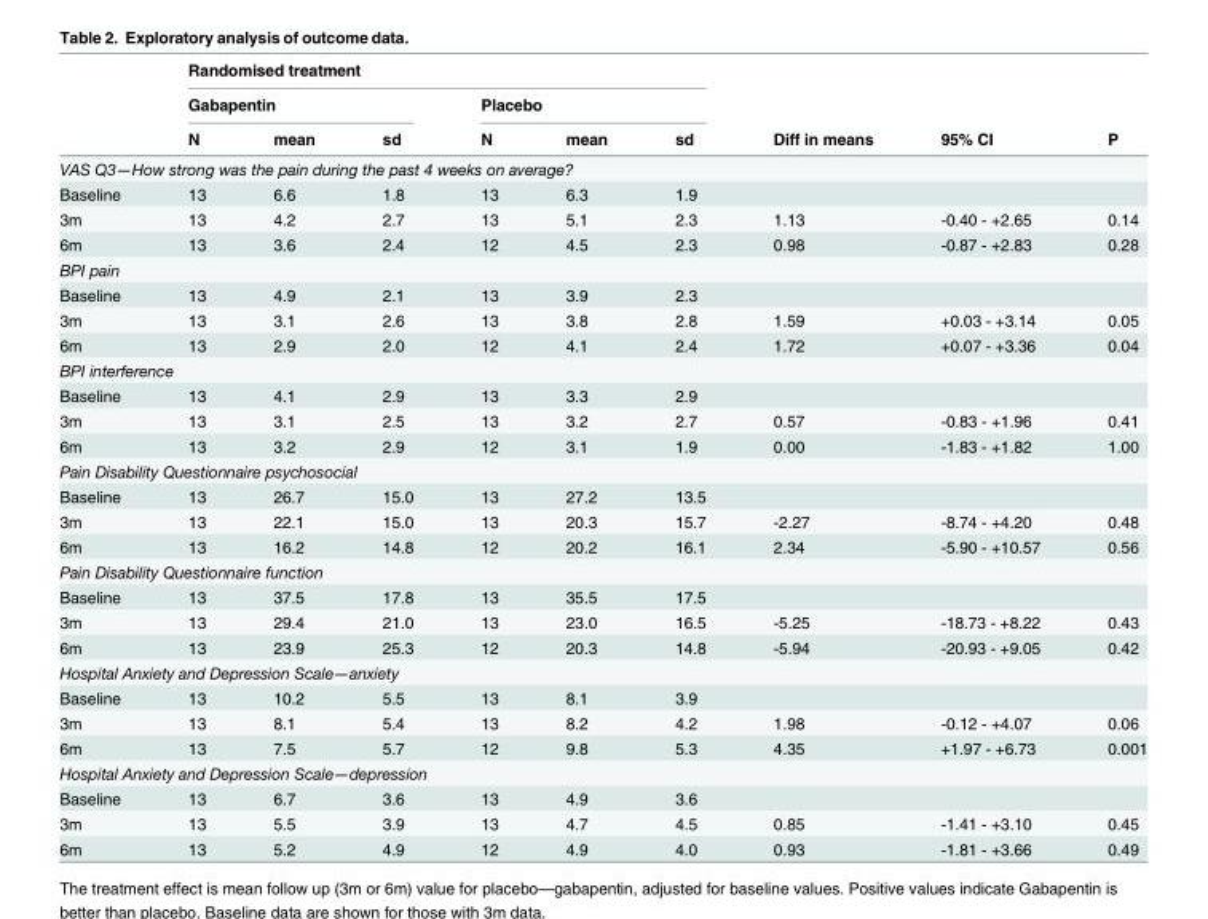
<table><thead><tr><td rowspan="3"></td><td colspan="6">Randomised treatment</td><td rowspan="3">Diff in means</td><td rowspan="3">95% CI</td><td rowspan="3">P</td></tr><tr><td colspan="3">Gabapentin</td><td colspan="3">Placebo</td></tr><tr><td>N</td><td>mean</td><td>sd</td><td>N</td><td>mean</td><td>sd</td></tr></thead><tbody><tr><td colspan="10">VAS Q3—How strong was the pain during the past 4 weeks on average?</td></tr><tr><td>Baseline</td><td>13</td><td>6.6</td><td>1.8</td><td>13</td><td>6.3</td><td>1.9</td><td></td><td></td><td></td></tr><tr><td>3m</td><td>13</td><td>4.2</td><td>2.7</td><td>13</td><td>5.1</td><td>2.3</td><td>1.13</td><td>-0.40 - +2.65</td><td>0.14</td></tr><tr><td>6m</td><td>13</td><td>3.6</td><td>2.4</td><td>12</td><td>4.5</td><td>2.3</td><td>0.98</td><td>-0.87 - +2.83</td><td>0.28</td></tr><tr><td colspan="10">BPI pain</td></tr><tr><td>Baseline</td><td>13</td><td>4.9</td><td>2.1</td><td>13</td><td>3.9</td><td>2.3</td><td></td><td></td><td></td></tr><tr><td>3m</td><td>13</td><td>3.1</td><td>2.6</td><td>13</td><td>3.8</td><td>2.8</td><td>1.59</td><td>+0.03 - +3.14</td><td>0.05</td></tr><tr><td>6m</td><td>13</td><td>2.9</td><td>2.0</td><td>12</td><td>4.1</td><td>2.4</td><td>1.72</td><td>+0.07 - +3.36</td><td>0.04</td></tr><tr><td colspan="10">BPI interference</td></tr><tr><td>Baseline</td><td>13</td><td>4.1</td><td>2.9</td><td>13</td><td>3.3</td><td>2.9</td><td></td><td></td><td></td></tr><tr><td>3m</td><td>13</td><td>3.1</td><td>2.5</td><td>13</td><td>3.2</td><td>2.7</td><td>0.57</td><td>-0.83 - +1.96</td><td>0.41</td></tr><tr><td>6m</td><td>13</td><td>3.2</td><td>2.9</td><td>12</td><td>3.1</td><td>1.9</td><td>0.00</td><td>-1.83 - +1.82</td><td>1.00</td></tr><tr><td colspan="10">Pain Disability Questionnaire psychosocial</td></tr><tr><td>Baseline</td><td>13</td><td>26.7</td><td>15.0</td><td>13</td><td>27.2</td><td>13.5</td><td></td><td></td><td></td></tr><tr><td>3m</td><td>13</td><td>22.1</td><td>15.0</td><td>13</td><td>20.3</td><td>15.7</td><td>-2.27</td><td>-8.74 - +4.20</td><td>0.48</td></tr><tr><td>6m</td><td>13</td><td>16.2</td><td>14.8</td><td>12</td><td>20.2</td><td>16.1</td><td>2.34</td><td>-5.90 - +10.57</td><td>0.56</td></tr><tr><td colspan="10">Pain Disability Questionnaire function</td></tr><tr><td>Baseline</td><td>13</td><td>37.5</td><td>17.8</td><td>13</td><td>35.5</td><td>17.5</td><td></td><td></td><td></td></tr><tr><td>3m</td><td>13</td><td>29.4</td><td>21.0</td><td>13</td><td>23.0</td><td>16.5</td><td>-5.25</td><td>-18.73 - +8.22</td><td>0.43</td></tr><tr><td>6m</td><td>13</td><td>23.9</td><td>25.3</td><td>12</td><td>20.3</td><td>14.8</td><td>-5.94</td><td>-20.93 - +9.05</td><td>0.42</td></tr><tr><td colspan="10">Hospital Anxiety and Depression Scale—anxiety</td></tr><tr><td>Baseline</td><td>13</td><td>10.2</td><td>5.5</td><td>13</td><td>8.1</td><td>3.9</td><td></td><td></td><td></td></tr><tr><td>3m</td><td>13</td><td>8.1</td><td>5.4</td><td>13</td><td>8.2</td><td>4.2</td><td>1.98</td><td>-0.12 - +4.07</td><td>0.06</td></tr><tr><td>6m</td><td>13</td><td>7.5</td><td>5.7</td><td>12</td><td>9.8</td><td>5.3</td><td>4.35</td><td>+1.97 - +6.73</td><td>0.001</td></tr><tr><td colspan="10">Hospital Anxiety and Depression Scale—depression</td></tr><tr><td>Baseline</td><td>13</td><td>6.7</td><td>3.6</td><td>13</td><td>4.9</td><td>3.6</td><td></td><td></td><td></td></tr><tr><td>3m</td><td>13</td><td>5.5</td><td>3.9</td><td>13</td><td>4.7</td><td>4.5</td><td>0.85</td><td>-1.41 - +3.10</td><td>0.45</td></tr><tr><td>6m</td><td>13</td><td>5.2</td><td>4.9</td><td>12</td><td>4.9</td><td>4.0</td><td>0.93</td><td>-1.81 - +3.66</td><td>0.49</td></tr></tbody></table>